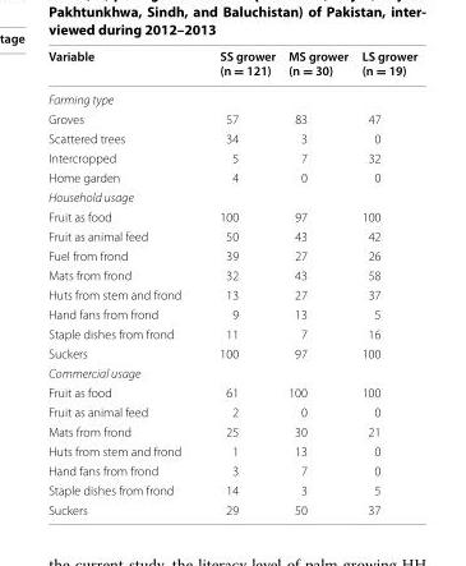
<table><thead><tr><td>Variable</td><td>SS grower (n = 121)</td><td>MS grower (n = 30)</td><td>LS grower (n = 19)</td></tr></thead><tbody><tr><td colspan="4">Farming type</td></tr><tr><td>Groves</td><td>57</td><td>83</td><td>47</td></tr><tr><td>Scattered trees</td><td>34</td><td>3</td><td>0</td></tr><tr><td>Intercropped</td><td>5</td><td>7</td><td>32</td></tr><tr><td>Home garden</td><td>4</td><td>0</td><td>0</td></tr><tr><td colspan="4">Household usage</td></tr><tr><td>Fruit as food</td><td>100</td><td>97</td><td>100</td></tr><tr><td>Fruit as animal feed</td><td>50</td><td>43</td><td>42</td></tr><tr><td>Fuel from frond</td><td>39</td><td>27</td><td>26</td></tr><tr><td>Mats from frond</td><td>32</td><td>43</td><td>58</td></tr><tr><td>Huts from stem and frond</td><td>13</td><td>27</td><td>37</td></tr><tr><td>Hand fans from frond</td><td>9</td><td>13</td><td>5</td></tr><tr><td>Staple dishes from frond</td><td>11</td><td>7</td><td>16</td></tr><tr><td>Suckers</td><td>100</td><td>97</td><td>100</td></tr><tr><td colspan="4">Commercial usage</td></tr><tr><td>Fruit as food</td><td>61</td><td>100</td><td>100</td></tr><tr><td>Fruit as animal feed</td><td>2</td><td>0</td><td>0</td></tr><tr><td>Mats from frond</td><td>25</td><td>30</td><td>21</td></tr><tr><td>Huts from stem and frond</td><td>1</td><td>13</td><td>0</td></tr><tr><td>Hand fans from frond</td><td>3</td><td>7</td><td>0</td></tr><tr><td>Staple dishes from frond</td><td>14</td><td>3</td><td>5</td></tr><tr><td>Suckers</td><td>29</td><td>50</td><td>37</td></tr></tbody></table>